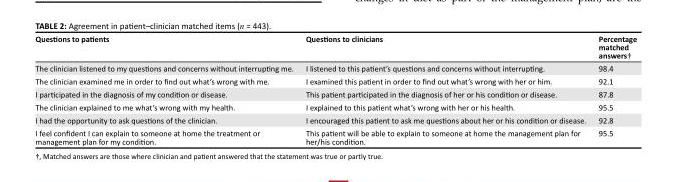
<table><thead><tr><td>Questions to patients</td><td>Questions to clinicians</td><td>Percentage matched answers†</td></tr></thead><tbody><tr><td>The clinician listened to my questions and concerns without interrupting me.</td><td>I listened to this patient’s questions and concerns without interrupting.</td><td>98.4</td></tr><tr><td>The clinician examined me in order to find out what’s wrong with me.</td><td>I examined this patient in order to find out what’s wrong with her or him.</td><td>92.1</td></tr><tr><td>I participated in the diagnosis of my condition or disease.</td><td>This patient participated in the diagnosis of her or his condition or disease.</td><td>87.8</td></tr><tr><td>The clinician explained to me what’s wrong with my health.</td><td>I explained to this patient what’s wrong with her or his health.</td><td>95.5</td></tr><tr><td>I had the opportunity to ask questions of the clinician.</td><td>I encouraged this patient to ask me questions about her or his condition or disease.</td><td>92.8</td></tr><tr><td>I feel confident I can explain to someone at home the treatment or management plan for my condition.</td><td>This patient will be able to explain to someone at home the management plan for her/his condition.</td><td>95.5</td></tr></tbody></table>